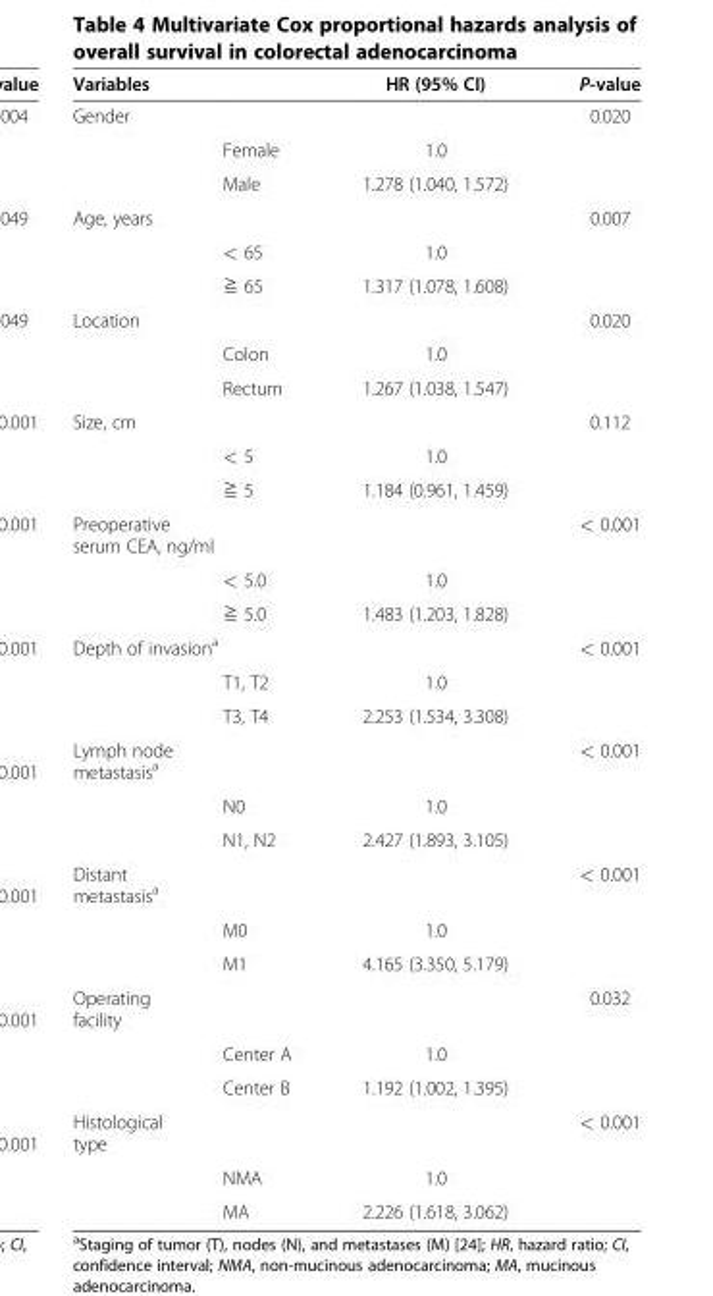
<table><thead><tr><td>Variables</td><td></td><td>HR (95% CI)</td><td>P-value</td></tr></thead><tbody><tr><td rowspan="3">Gender</td><td></td><td></td><td>0.020</td></tr><tr><td>Female</td><td>1.0</td><td></td></tr><tr><td>Male</td><td>1.278 (1.040, 1.572)</td><td></td></tr><tr><td rowspan="3">Age, years</td><td></td><td></td><td>0.007</td></tr><tr><td>&lt; 65</td><td>1.0</td><td></td></tr><tr><td>≧ 65</td><td>1.317 (1.078, 1.608)</td><td></td></tr><tr><td rowspan="3">Location</td><td></td><td></td><td>0.020</td></tr><tr><td>Colon</td><td>1.0</td><td></td></tr><tr><td>Rectum</td><td>1.267 (1.038, 1.547)</td><td></td></tr><tr><td rowspan="3">Size, cm</td><td></td><td></td><td>0.112</td></tr><tr><td>&lt; 5</td><td>1.0</td><td></td></tr><tr><td>≧ 5</td><td>1.184 (0.961, 1.459)</td><td></td></tr><tr><td colspan="2">Preoperative serum CEA, ng/ml</td><td></td><td>&lt; 0.001</td></tr><tr><td></td><td>&lt; 5.0</td><td>1.0</td><td></td></tr><tr><td></td><td>≧ 5.0</td><td>1.483 (1.203, 1.828)</td><td></td></tr><tr><td colspan="2">Depth of invasion<sup>a</sup></td><td></td><td>&lt; 0.001</td></tr><tr><td></td><td>T1, T2</td><td>1.0</td><td></td></tr><tr><td></td><td>T3, T4</td><td>2.253 (1.534, 3.308)</td><td></td></tr><tr><td colspan="2">Lymph node metastasis<sup>a</sup></td><td></td><td>&lt; 0.001</td></tr><tr><td></td><td>N0</td><td>1.0</td><td></td></tr><tr><td></td><td>N1, N2</td><td>2.427 (1.893, 3.105)</td><td></td></tr><tr><td colspan="2">Distant metastasis<sup>a</sup></td><td></td><td>&lt; 0.001</td></tr><tr><td></td><td>M0</td><td>1.0</td><td></td></tr><tr><td></td><td>M1</td><td>4.165 (3.350, 5.179)</td><td></td></tr><tr><td colspan="2">Operating facility</td><td></td><td>0.032</td></tr><tr><td></td><td>Center A</td><td>1.0</td><td></td></tr><tr><td></td><td>Center B</td><td>1.192 (1.002, 1.395)</td><td></td></tr><tr><td colspan="2">Histological type</td><td></td><td>&lt; 0.001</td></tr><tr><td></td><td>NMA</td><td>1.0</td><td></td></tr><tr><td></td><td>MA</td><td>2.226 (1.618, 3.062)</td><td></td></tr></tbody></table>